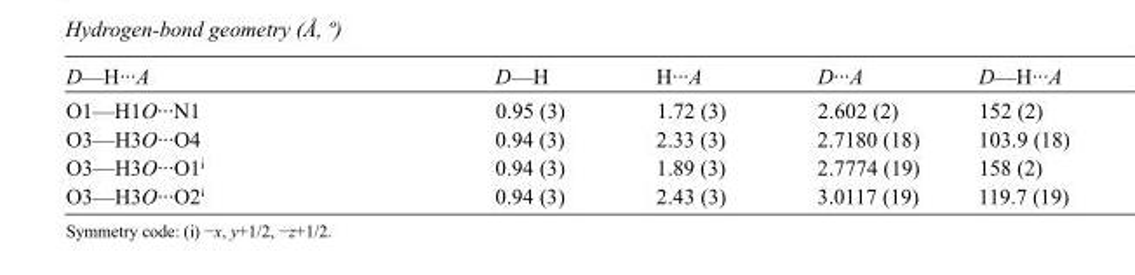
<table><tbody><tr><td>D—H···A</td><td>D—H</td><td>H···A</td><td>D···A</td><td>D—H···A</td></tr><tr><td>O1—H1O···N1</td><td>0.95 (3)</td><td>1.72 (3)</td><td>2.602 (2)</td><td>152 (2)</td></tr><tr><td>O3—H3O···O4</td><td>0.94 (3)</td><td>2.33 (3)</td><td>2.7180 (18)</td><td>103.9 (18)</td></tr><tr><td>O3—H3O···O1<sup>i</sup></td><td>0.94 (3)</td><td>1.89 (3)</td><td>2.7774 (19)</td><td>158 (2)</td></tr><tr><td>O3—H3O···O2<sup>i</sup></td><td>0.94 (3)</td><td>2.43 (3)</td><td>3.0117 (19)</td><td>119.7 (19)</td></tr></tbody></table>